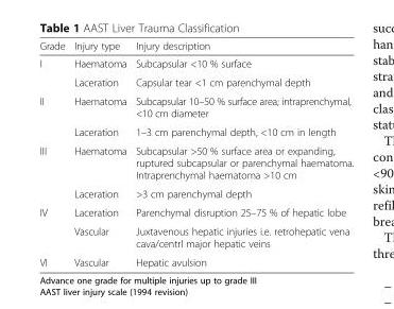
<table><thead><tr><td>Grade</td><td>Injury type</td><td>Injury description</td></tr></thead><tbody><tr><td rowspan="2">I</td><td>Haematoma</td><td>Subcapsular &lt;10 % surface</td></tr><tr><td>Laceration</td><td>Capsular tear &lt;1 cm parenchymal depth</td></tr><tr><td rowspan="2">II</td><td>Haematoma</td><td>Subcapsular 10–50 % surface area; intraprenchymal, &lt;10 cm diameter</td></tr><tr><td>Laceration</td><td>1–3 cm parenchymal depth, &lt;10 cm in length</td></tr><tr><td rowspan="2">III</td><td>Haematoma</td><td>Subcapsular &gt;50 % surface area or expanding, ruptured subcapsular or parenchymal haematoma. Intraprenchymal haematoma &gt;10 cm</td></tr><tr><td>Laceration</td><td>&gt;3 cm parenchymal depth</td></tr><tr><td rowspan="2">IV</td><td>Laceration</td><td>Parenchymal disruption 25–75 % of hepatic lobe</td></tr><tr><td>Vascular</td><td>Juxtavenous hepatic injuries i.e. retrohepatic vena cava/centrl major hepatic veins</td></tr><tr><td>VI</td><td>Vascular</td><td>Hepatic avulsion</td></tr></tbody></table>